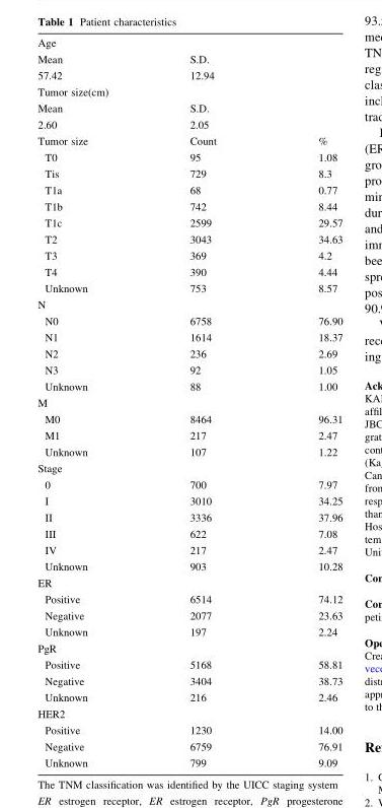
<table><tbody><tr><td colspan="3">Age</td></tr><tr><td>Mean</td><td colspan="2">S.D.</td></tr><tr><td>57.42</td><td colspan="2">12.94</td></tr><tr><td colspan="3">Tumor size(cm)</td></tr><tr><td>Mean</td><td colspan="2">S.D.</td></tr><tr><td>2.60</td><td colspan="2">2.05</td></tr><tr><td>Tumor size</td><td>Count</td><td>%</td></tr><tr><td>T0</td><td>95</td><td>1.08</td></tr><tr><td>Tis</td><td>729</td><td>8.3</td></tr><tr><td>T1a</td><td>68</td><td>0.77</td></tr><tr><td>T1b</td><td>742</td><td>8.44</td></tr><tr><td>T1c</td><td>2599</td><td>29.57</td></tr><tr><td>T2</td><td>3043</td><td>34.63</td></tr><tr><td>T3</td><td>369</td><td>4.2</td></tr><tr><td>T4</td><td>390</td><td>4.44</td></tr><tr><td>Unknown</td><td>753</td><td>8.57</td></tr><tr><td colspan="3">N</td></tr><tr><td>N0</td><td>6758</td><td>76.90</td></tr><tr><td>N1</td><td>1614</td><td>18.37</td></tr><tr><td>N2</td><td>236</td><td>2.69</td></tr><tr><td>N3</td><td>92</td><td>1.05</td></tr><tr><td>Unknown</td><td>88</td><td>1.00</td></tr><tr><td colspan="3">M</td></tr><tr><td>M0</td><td>8464</td><td>96.31</td></tr><tr><td>M1</td><td>217</td><td>2.47</td></tr><tr><td>Unknown</td><td>107</td><td>1.22</td></tr><tr><td colspan="3">Stage</td></tr><tr><td>0</td><td>700</td><td>7.97</td></tr><tr><td>I</td><td>3010</td><td>34.25</td></tr><tr><td>II</td><td>3336</td><td>37.96</td></tr><tr><td>III</td><td>622</td><td>7.08</td></tr><tr><td>IV</td><td>217</td><td>2.47</td></tr><tr><td>Unknown</td><td>903</td><td>10.28</td></tr><tr><td colspan="3">ER</td></tr><tr><td>Positive</td><td>6514</td><td>74.12</td></tr><tr><td>Negative</td><td>2077</td><td>23.63</td></tr><tr><td>Unknown</td><td>197</td><td>2.24</td></tr><tr><td colspan="3">PgR</td></tr><tr><td>Positive</td><td>5168</td><td>58.81</td></tr><tr><td>Negative</td><td>3404</td><td>38.73</td></tr><tr><td>Unknown</td><td>216</td><td>2.46</td></tr><tr><td colspan="3">HER2</td></tr><tr><td>Positive</td><td>1230</td><td>14.00</td></tr><tr><td>Negative</td><td>6759</td><td>76.91</td></tr><tr><td>Unknown</td><td>799</td><td>9.09</td></tr></tbody></table>